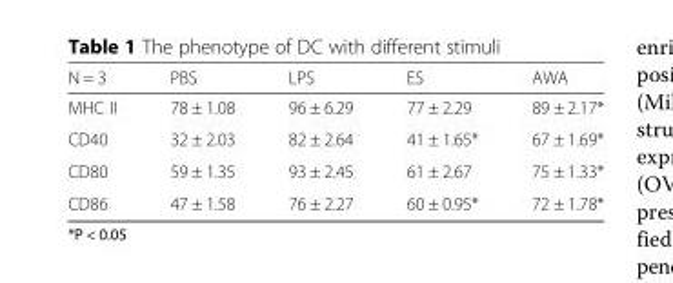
<table><thead><tr><td>N = 3</td><td>PBS</td><td>LPS</td><td>ES</td><td>AWA</td></tr></thead><tbody><tr><td>MHC II</td><td>78 ± 1.08</td><td>96 ± 6.29</td><td>77 ± 2.29</td><td>89 ± 2.17*</td></tr><tr><td>CD40</td><td>32 ± 2.03</td><td>82 ± 2.64</td><td>41 ± 1.65*</td><td>67 ± 1.69*</td></tr><tr><td>CD80</td><td>59 ± 1.35</td><td>93 ± 2.45</td><td>61 ± 2.67</td><td>75 ± 1.33*</td></tr><tr><td>CD86</td><td>47 ± 1.58</td><td>76 ± 2.27</td><td>60 ± 0.95*</td><td>72 ± 1.78*</td></tr></tbody></table>